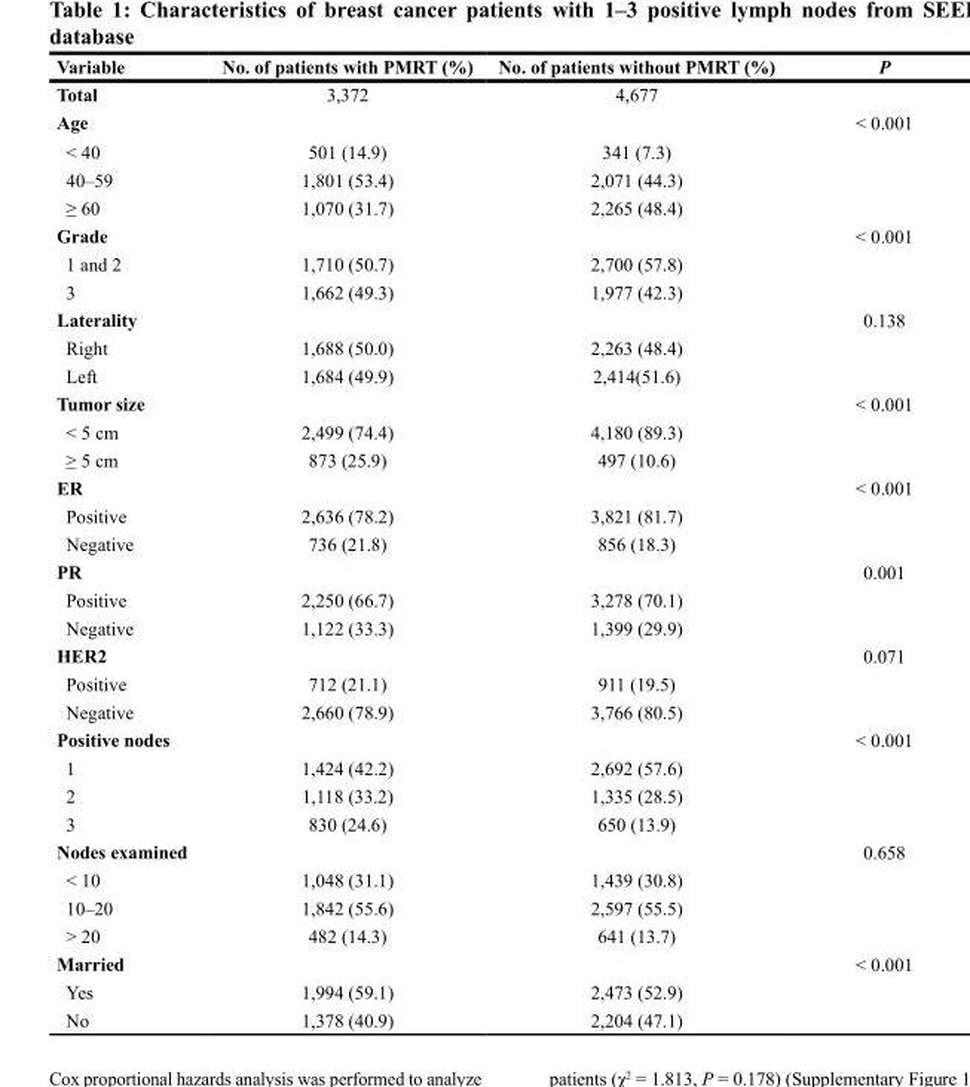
<table><thead><tr><td>Variable</td><td>No. of patients with PMRT (%)</td><td>No. of patients without PMRT (%)</td><td>P</td></tr></thead><tbody><tr><td>Total</td><td>3,372</td><td>4,677</td><td></td></tr><tr><td>Age</td><td></td><td></td><td>&lt; 0.001</td></tr><tr><td>&lt; 40</td><td>501 (14.9)</td><td>341 (7.3)</td><td></td></tr><tr><td>40–59</td><td>1,801 (53.4)</td><td>2,071 (44.3)</td><td></td></tr><tr><td>≥ 60</td><td>1,070 (31.7)</td><td>2,265 (48.4)</td><td></td></tr><tr><td>Grade</td><td></td><td></td><td>&lt; 0.001</td></tr><tr><td>1 and 2</td><td>1,710 (50.7)</td><td>2,700 (57.8)</td><td></td></tr><tr><td>3</td><td>1,662 (49.3)</td><td>1,977 (42.3)</td><td></td></tr><tr><td>Laterality</td><td></td><td></td><td>0.138</td></tr><tr><td>Right</td><td>1,688 (50.0)</td><td>2,263 (48.4)</td><td></td></tr><tr><td>Left</td><td>1,684 (49.9)</td><td>2,414(51.6)</td><td></td></tr><tr><td>Tumor size</td><td></td><td></td><td>&lt; 0.001</td></tr><tr><td>&lt; 5 cm</td><td>2,499 (74.4)</td><td>4,180 (89.3)</td><td></td></tr><tr><td>≥ 5 cm</td><td>873 (25.9)</td><td>497 (10.6)</td><td></td></tr><tr><td>ER</td><td></td><td></td><td>&lt; 0.001</td></tr><tr><td>Positive</td><td>2,636 (78.2)</td><td>3,821 (81.7)</td><td></td></tr><tr><td>Negative</td><td>736 (21.8)</td><td>856 (18.3)</td><td></td></tr><tr><td>PR</td><td></td><td></td><td>0.001</td></tr><tr><td>Positive</td><td>2,250 (66.7)</td><td>3,278 (70.1)</td><td></td></tr><tr><td>Negative</td><td>1,122 (33.3)</td><td>1,399 (29.9)</td><td></td></tr><tr><td>HER2</td><td></td><td></td><td>0.071</td></tr><tr><td>Positive</td><td>712 (21.1)</td><td>911 (19.5)</td><td></td></tr><tr><td>Negative</td><td>2,660 (78.9)</td><td>3,766 (80.5)</td><td></td></tr><tr><td>Positive nodes</td><td></td><td></td><td>&lt; 0.001</td></tr><tr><td>1</td><td>1,424 (42.2)</td><td>2,692 (57.6)</td><td></td></tr><tr><td>2</td><td>1,118 (33.2)</td><td>1,335 (28.5)</td><td></td></tr><tr><td>3</td><td>830 (24.6)</td><td>650 (13.9)</td><td></td></tr><tr><td>Nodes examined</td><td></td><td></td><td>0.658</td></tr><tr><td>&lt; 10</td><td>1,048 (31.1)</td><td>1,439 (30.8)</td><td></td></tr><tr><td>10–20</td><td>1,842 (55.6)</td><td>2,597 (55.5)</td><td></td></tr><tr><td>&gt; 20</td><td>482 (14.3)</td><td>641 (13.7)</td><td></td></tr><tr><td>Married</td><td></td><td></td><td>&lt; 0.001</td></tr><tr><td>Yes</td><td>1,994 (59.1)</td><td>2,473 (52.9)</td><td></td></tr><tr><td>No</td><td>1,378 (40.9)</td><td>2,204 (47.1)</td><td></td></tr></tbody></table>